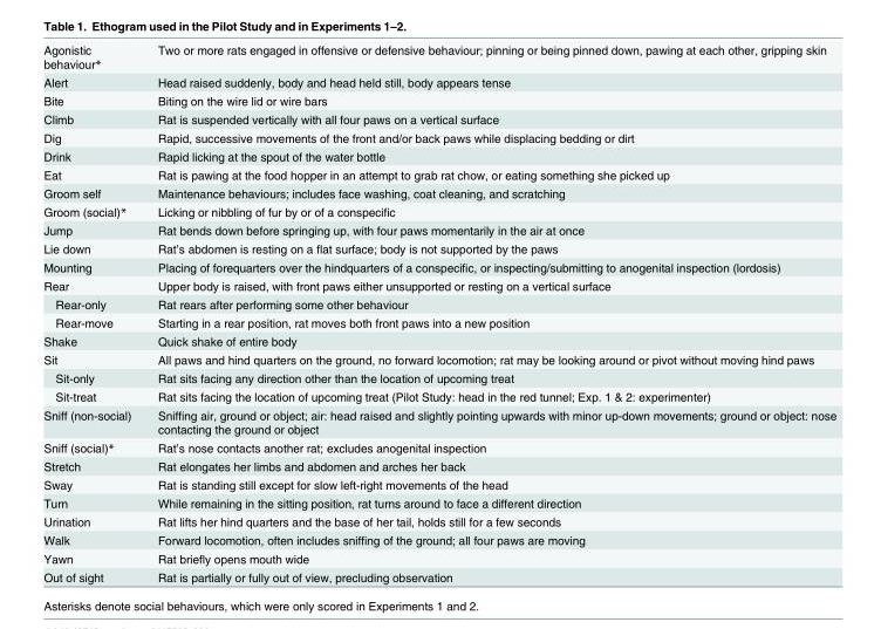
<table><tbody><tr><td>Agonistic behaviour*</td><td>Two or more rats engaged in offensive or defensive behaviour; pinning or being pinned down, pawing at each other, gripping skin</td></tr><tr><td>Alert</td><td>Head raised suddenly, body and head held still, body appears tense</td></tr><tr><td>Bite</td><td>Biting on the wire lid or wire bars</td></tr><tr><td>Climb</td><td>Rat is suspended vertically with all four paws on a vertical surface</td></tr><tr><td>Dig</td><td>Rapid, successive movements of the front and/or back paws while displacing bedding or dirt</td></tr><tr><td>Drink</td><td>Rapid licking at the spout of the water bottle</td></tr><tr><td>Eat</td><td>Rat is pawing at the food hopper in an attempt to grab rat chow, or eating something she picked up</td></tr><tr><td>Groom self</td><td>Maintenance behaviours; includes face washing, coat cleaning, and scratching</td></tr><tr><td>Groom (social)*</td><td>Licking or nibbling of fur by or of a conspecific</td></tr><tr><td>Jump</td><td>Rat bends down before springing up, with four paws momentarily in the air at once</td></tr><tr><td>Lie down</td><td>Rat’s abdomen is resting on a flat surface; body is not supported by the paws</td></tr><tr><td>Mounting</td><td>Placing of forequarters over the hindquarters of a conspecific, or inspecting/submitting to anogenital inspection (lordosis)</td></tr><tr><td>Rear</td><td>Upper body is raised, with front paws either unsupported or resting on a vertical surface</td></tr><tr><td>Rear-only</td><td>Rat rears after performing some other behaviour</td></tr><tr><td>Rear-move</td><td>Starting in a rear position, rat moves both front paws into a new position</td></tr><tr><td>Shake</td><td>Quick shake of entire body</td></tr><tr><td>Sit</td><td>All paws and hind quarters on the ground, no forward locomotion; rat may be looking around or pivot without moving hind paws</td></tr><tr><td>Sit-only</td><td>Rat sits facing any direction other than the location of upcoming treat</td></tr><tr><td>Sit-treat</td><td>Rat sits facing the location of upcoming treat (Pilot Study: head in the red tunnel; Exp. 1 &amp; 2: experimenter)</td></tr><tr><td>Sniff (non-social)</td><td>Sniffing air, ground or object; air: head raised and slightly pointing upwards with minor up-down movements; ground or object: nose contacting the ground or object</td></tr><tr><td>Sniff (social)*</td><td>Rat’s nose contacts another rat; excludes anogenital inspection</td></tr><tr><td>Stretch</td><td>Rat elongates her limbs and abdomen and arches her back</td></tr><tr><td>Sway</td><td>Rat is standing still except for slow left-right movements of the head</td></tr><tr><td>Turn</td><td>While remaining in the sitting position, rat turns around to face a different direction</td></tr><tr><td>Urination</td><td>Rat lifts her hind quarters and the base of her tail, holds still for a few seconds</td></tr><tr><td>Walk</td><td>Forward locomotion, often includes sniffing of the ground; all four paws are moving</td></tr><tr><td>Yawn</td><td>Rat briefly opens mouth wide</td></tr><tr><td>Out of sight</td><td>Rat is partially or fully out of view, precluding observation</td></tr></tbody></table>